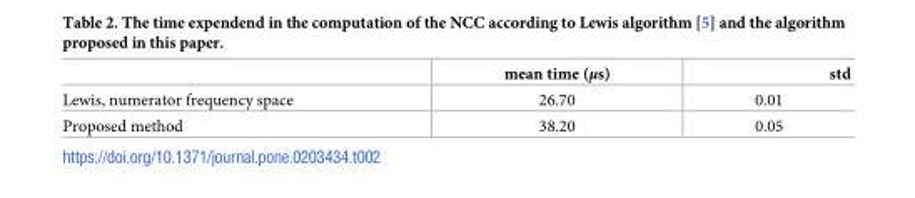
<table><thead><tr><td></td><td>mean time (μs)</td><td>std</td></tr></thead><tbody><tr><td>Lewis, numerator frequency space</td><td>26.70</td><td>0.01</td></tr><tr><td>Proposed method</td><td>38.20</td><td>0.05</td></tr></tbody></table>